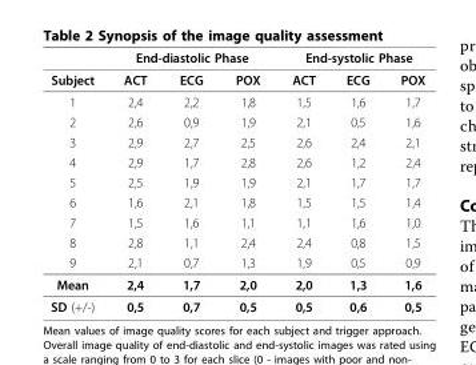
<table><thead><tr><td rowspan="2">Subject</td><td colspan="3">End-diastolic Phase</td><td colspan="3">End-systolic Phase</td></tr><tr><td>ACT</td><td>ECG</td><td>POX</td><td>ACT</td><td>ECG</td><td>POX</td></tr></thead><tbody><tr><td>1</td><td>2,4</td><td>2,2</td><td>1,8</td><td>1,5</td><td>1,6</td><td>1,7</td></tr><tr><td>2</td><td>2,6</td><td>0,9</td><td>1,9</td><td>2,1</td><td>0,5</td><td>1,6</td></tr><tr><td>3</td><td>2,9</td><td>2,7</td><td>2,5</td><td>2,6</td><td>2,4</td><td>2,1</td></tr><tr><td>4</td><td>2,9</td><td>1,7</td><td>2,8</td><td>2,6</td><td>1,2</td><td>2,4</td></tr><tr><td>5</td><td>2,5</td><td>1,9</td><td>1,9</td><td>2,1</td><td>1,7</td><td>1,7</td></tr><tr><td>6</td><td>1,6</td><td>2,1</td><td>1,8</td><td>1,5</td><td>1,5</td><td>1,4</td></tr><tr><td>7</td><td>1,5</td><td>1,6</td><td>1,1</td><td>1,1</td><td>1,6</td><td>1,0</td></tr><tr><td>8</td><td>2,8</td><td>1,1</td><td>2,4</td><td>2,4</td><td>0,8</td><td>1,5</td></tr><tr><td>9</td><td>2,1</td><td>0,7</td><td>1,3</td><td>1,9</td><td>0,5</td><td>0,9</td></tr><tr><td>Mean</td><td>2,4</td><td>1,7</td><td>2,0</td><td>2,0</td><td>1,3</td><td>1,6</td></tr><tr><td>SD (+/-)</td><td>0,5</td><td>0,7</td><td>0,5</td><td>0,5</td><td>0,6</td><td>0,5</td></tr></tbody></table>